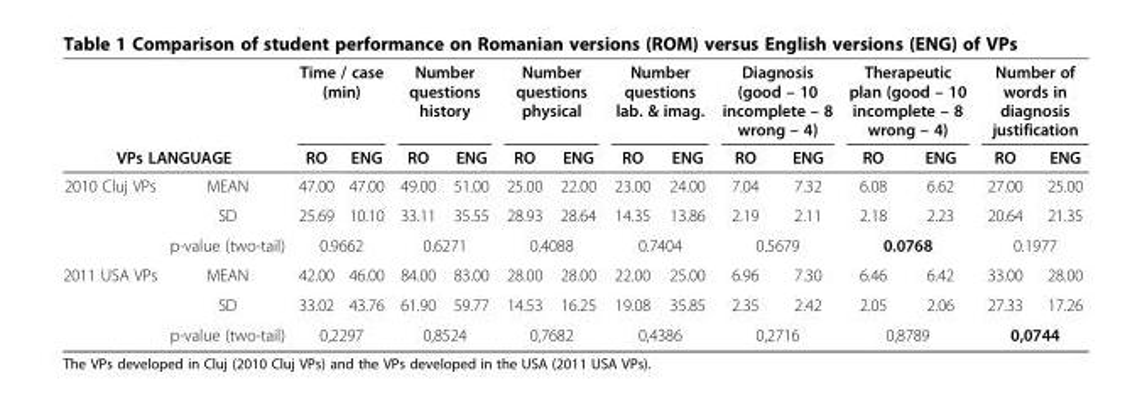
<table><thead><tr><td></td><td></td><td colspan="2">Time / case (min)</td><td colspan="2">Number questions history</td><td colspan="2">Number questions physical</td><td colspan="2">Number questions lab. &amp; imag.</td><td colspan="2">Diagnosis (good – 10 incomplete – 8 wrong – 4)</td><td colspan="2">Therapeutic plan (good – 10 incomplete – 8 wrong – 4)</td><td colspan="2">Number of words in diagnosis justification</td></tr><tr><td colspan="2">VPs LANGUAGE</td><td>RO</td><td>ENG</td><td>RO</td><td>ENG</td><td>RO</td><td>ENG</td><td>RO</td><td>ENG</td><td>RO</td><td>ENG</td><td>RO</td><td>ENG</td><td>RO</td><td>ENG</td></tr></thead><tbody><tr><td rowspan="3">2010 Cluj VPs</td><td>MEAN</td><td>47.00</td><td>47.00</td><td>49.00</td><td>51.00</td><td>25.00</td><td>22.00</td><td>23.00</td><td>24.00</td><td>7.04</td><td>7.32</td><td>6.08</td><td>6.62</td><td>27.00</td><td>25.00</td></tr><tr><td>SD</td><td>25.69</td><td>10.10</td><td>33.11</td><td>35.55</td><td>28.93</td><td>28.64</td><td>14.35</td><td>13.86</td><td>2.19</td><td>2.11</td><td>2.18</td><td>2.23</td><td>20.64</td><td>21.35</td></tr><tr><td>p-value (two-tail)</td><td colspan="2">0.9662</td><td colspan="2">0.6271</td><td colspan="2">0.4088</td><td colspan="2">0.7404</td><td colspan="2">0.5679</td><td colspan="2">0.0768</td><td colspan="2">0.1977</td></tr><tr><td rowspan="3">2011 USA VPs</td><td>MEAN</td><td>42.00</td><td>46.00</td><td>84.00</td><td>83.00</td><td>28.00</td><td>28.00</td><td>22.00</td><td>25.00</td><td>6.96</td><td>7.30</td><td>6.46</td><td>6.42</td><td>33.00</td><td>28.00</td></tr><tr><td>SD</td><td>33.02</td><td>43.76</td><td>61.90</td><td>59.77</td><td>14.53</td><td>16.25</td><td>19.08</td><td>35.85</td><td>2.35</td><td>2.42</td><td>2.05</td><td>2.06</td><td>27.33</td><td>17.26</td></tr><tr><td>p-value (two-tail)</td><td colspan="2">0,2297</td><td colspan="2">0,8524</td><td colspan="2">0,7682</td><td colspan="2">0,4386</td><td colspan="2">0,2716</td><td colspan="2">0,8789</td><td colspan="2">0,0744</td></tr></tbody></table>